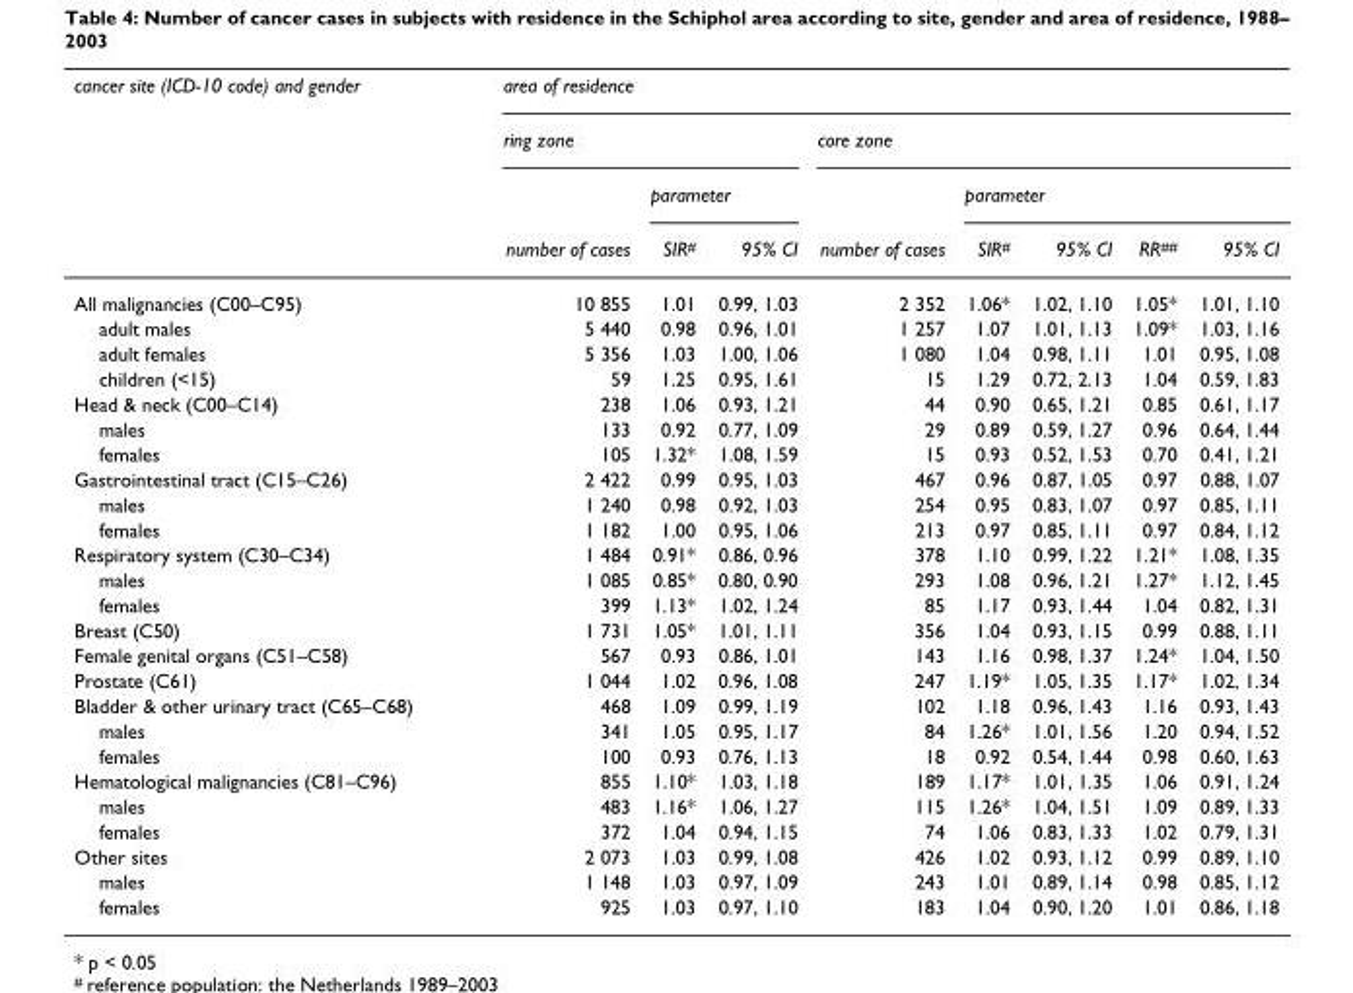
<table><thead><tr><td rowspan="4">cancer site (ICD-10 code) and gender</td><td colspan="8">area of residence</td></tr><tr><td colspan="3">ring zone</td><td colspan="5">core zone</td></tr><tr><td rowspan="2">number of cases</td><td colspan="2">parameter</td><td rowspan="2">number of cases</td><td colspan="4">parameter</td></tr><tr><td>SIR<sup>#</sup></td><td>95% CI</td><td>SIR<sup>#</sup></td><td>95% CI</td><td>RR<sup>##</sup></td><td>95% CI</td></tr></thead><tbody><tr><td>All malignancies (C00–C95)</td><td>10 855</td><td>1.01</td><td>0.99, 1.03</td><td>2 352</td><td>1.06*</td><td>1.02, 1.10</td><td>1.05*</td><td>1.01, 1.10</td></tr><tr><td>adult males</td><td>5 440</td><td>0.98</td><td>0.96, 1.01</td><td>1 257</td><td>1.07</td><td>1.01, 1.13</td><td>1.09*</td><td>1.03, 1.16</td></tr><tr><td>adult females</td><td>5 356</td><td>1.03</td><td>1.00, 1.06</td><td>1 080</td><td>1.04</td><td>0.98, 1.11</td><td>1.01</td><td>0.95, 1.08</td></tr><tr><td>children (&lt;15)</td><td>59</td><td>1.25</td><td>0.95, 1.61</td><td>15</td><td>1.29</td><td>0.72, 2.13</td><td>1.04</td><td>0.59, 1.83</td></tr><tr><td>Head &amp; neck (C00–C14)</td><td>238</td><td>1.06</td><td>0.93, 1.21</td><td>44</td><td>0.90</td><td>0.65, 1.21</td><td>0.85</td><td>0.61, 1.17</td></tr><tr><td>males</td><td>133</td><td>0.92</td><td>0.77, 1.09</td><td>29</td><td>0.89</td><td>0.59, 1.27</td><td>0.96</td><td>0.64, 1.44</td></tr><tr><td>females</td><td>105</td><td>1.32*</td><td>1.08, 1.59</td><td>15</td><td>0.93</td><td>0.52, 1.53</td><td>0.70</td><td>0.41, 1.21</td></tr><tr><td>Gastrointestinal tract (C15–C26)</td><td>2 422</td><td>0.99</td><td>0.95, 1.03</td><td>467</td><td>0.96</td><td>0.87, 1.05</td><td>0.97</td><td>0.88, 1.07</td></tr><tr><td>males</td><td>1 240</td><td>0.98</td><td>0.92, 1.03</td><td>254</td><td>0.95</td><td>0.83, 1.07</td><td>0.97</td><td>0.85, 1.11</td></tr><tr><td>females</td><td>1 182</td><td>1.00</td><td>0.95, 1.06</td><td>213</td><td>0.97</td><td>0.85, 1.11</td><td>0.97</td><td>0.84, 1.12</td></tr><tr><td>Respiratory system (C30–C34)</td><td>1 484</td><td>0.91*</td><td>0.86, 0.96</td><td>378</td><td>1.10</td><td>0.99, 1.22</td><td>1.21*</td><td>1.08, 1.35</td></tr><tr><td>males</td><td>1 085</td><td>0.85*</td><td>0.80, 0.90</td><td>293</td><td>1.08</td><td>0.96, 1.21</td><td>1.27*</td><td>1.12, 1.45</td></tr><tr><td>females</td><td>399</td><td>1.13*</td><td>1.02, 1.24</td><td>85</td><td>1.17</td><td>0.93, 1.44</td><td>1.04</td><td>0.82, 1.31</td></tr><tr><td>Breast (C50)</td><td>1 731</td><td>1.05*</td><td>1.01, 1.11</td><td>356</td><td>1.04</td><td>0.93, 1.15</td><td>0.99</td><td>0.88, 1.11</td></tr><tr><td>Female genital organs (C51–C58)</td><td>567</td><td>0.93</td><td>0.86, 1.01</td><td>143</td><td>1.16</td><td>0.98, 1.37</td><td>1.24*</td><td>1.04, 1.50</td></tr><tr><td>Prostate (C61)</td><td>1 044</td><td>1.02</td><td>0.96, 1.08</td><td>247</td><td>1.19*</td><td>1.05, 1.35</td><td>1.17*</td><td>1.02, 1.34</td></tr><tr><td>Bladder &amp; other urinary tract (C65–C68)</td><td>468</td><td>1.09</td><td>0.99, 1.19</td><td>102</td><td>1.18</td><td>0.96, 1.43</td><td>1.16</td><td>0.93, 1.43</td></tr><tr><td>males</td><td>341</td><td>1.05</td><td>0.95, 1.17</td><td>84</td><td>1.26*</td><td>1.01, 1.56</td><td>1.20</td><td>0.94, 1.52</td></tr><tr><td>females</td><td>100</td><td>0.93</td><td>0.76, 1.13</td><td>18</td><td>0.92</td><td>0.54, 1.44</td><td>0.98</td><td>0.60, 1.63</td></tr><tr><td>Hematological malignancies (C81–C96)</td><td>855</td><td>1.10*</td><td>1.03, 1.18</td><td>189</td><td>1.17*</td><td>1.01, 1.35</td><td>1.06</td><td>0.91, 1.24</td></tr><tr><td>males</td><td>483</td><td>1.16*</td><td>1.06, 1.27</td><td>115</td><td>1.26*</td><td>1.04, 1.51</td><td>1.09</td><td>0.89, 1.33</td></tr><tr><td>females</td><td>372</td><td>1.04</td><td>0.94, 1.15</td><td>74</td><td>1.06</td><td>0.83, 1.33</td><td>1.02</td><td>0.79, 1.31</td></tr><tr><td>Other sites</td><td>2 073</td><td>1.03</td><td>0.99, 1.08</td><td>426</td><td>1.02</td><td>0.93, 1.12</td><td>0.99</td><td>0.89, 1.10</td></tr><tr><td>males</td><td>1 148</td><td>1.03</td><td>0.97, 1.09</td><td>243</td><td>1.01</td><td>0.89, 1.14</td><td>0.98</td><td>0.85, 1.12</td></tr><tr><td>females</td><td>925</td><td>1.03</td><td>0.97, 1.10</td><td>183</td><td>1.04</td><td>0.90, 1.20</td><td>1.01</td><td>0.86, 1.18</td></tr></tbody></table>